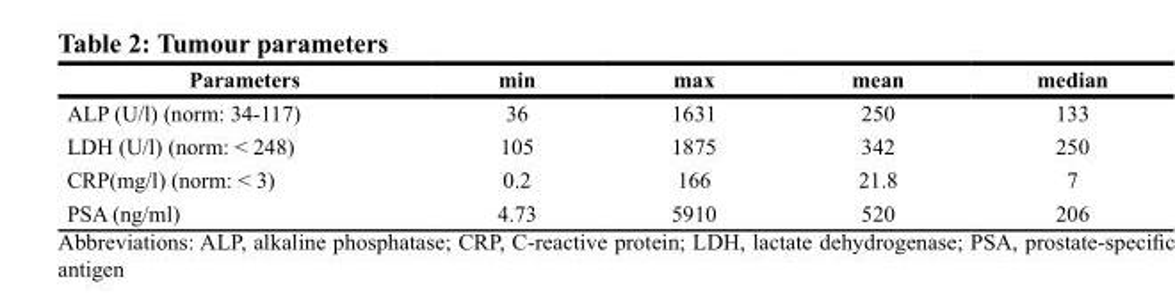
<table><thead><tr><td>Parameters</td><td>min</td><td>max</td><td>mean</td><td>median</td></tr></thead><tbody><tr><td>ALP (U/l) (norm: 34-117)</td><td>36</td><td>1631</td><td>250</td><td>133</td></tr><tr><td>LDH (U/l) (norm: &lt; 248)</td><td>105</td><td>1875</td><td>342</td><td>250</td></tr><tr><td>CRP(mg/l) (norm: &lt; 3)</td><td>0.2</td><td>166</td><td>21.8</td><td>7</td></tr><tr><td>PSA (ng/ml)</td><td>4.73</td><td>5910</td><td>520</td><td>206</td></tr></tbody></table>